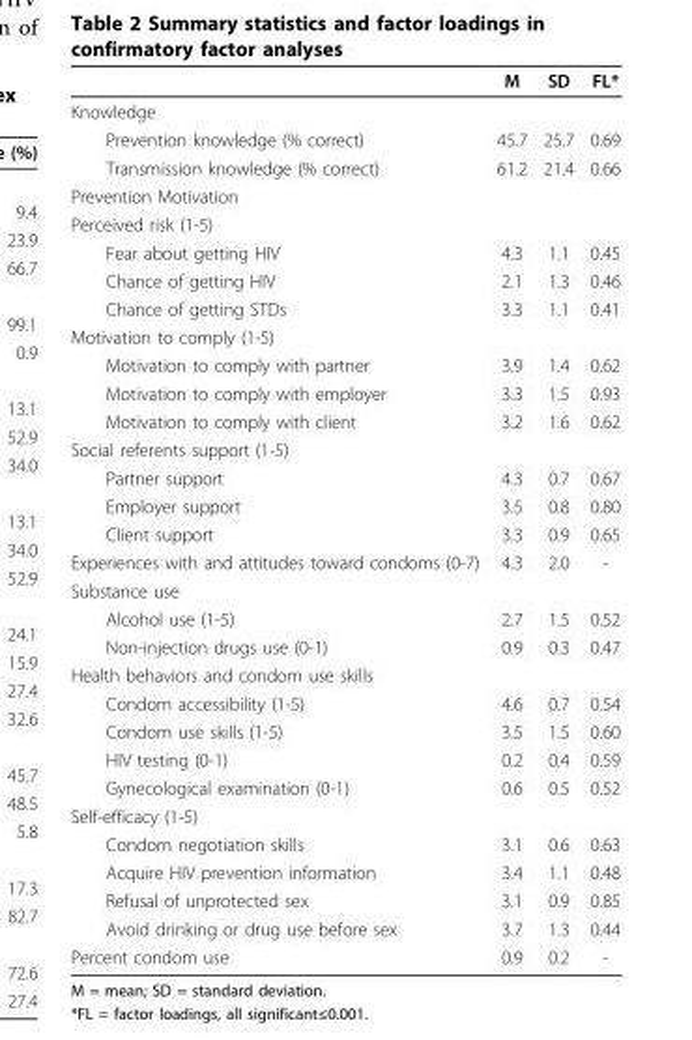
<table><thead><tr><td></td><td>M</td><td>SD</td><td>FL*</td></tr></thead><tbody><tr><td colspan="4">Knowledge</td></tr><tr><td>Prevention knowledge (% correct)</td><td>45.7</td><td>25.7</td><td>0.69</td></tr><tr><td>Transmission knowledge (% correct)</td><td>61.2</td><td>21.4</td><td>0.66</td></tr><tr><td colspan="4">Prevention Motivation</td></tr><tr><td colspan="4">Perceived risk (1-5)</td></tr><tr><td>Fear about getting HIV</td><td>4.3</td><td>1.1</td><td>0.45</td></tr><tr><td>Chance of getting HIV</td><td>2.1</td><td>1.3</td><td>0.46</td></tr><tr><td>Chance of getting STDs</td><td>3.3</td><td>1.1</td><td>0.41</td></tr><tr><td colspan="4">Motivation to comply (1-5)</td></tr><tr><td>Motivation to comply with partner</td><td>3.9</td><td>1.4</td><td>0.62</td></tr><tr><td>Motivation to comply with employer</td><td>3.3</td><td>1.5</td><td>0.93</td></tr><tr><td>Motivation to comply with client</td><td>3.2</td><td>1.6</td><td>0.62</td></tr><tr><td colspan="4">Social referents support (1-5)</td></tr><tr><td>Partner support</td><td>4.3</td><td>0.7</td><td>0.67</td></tr><tr><td>Employer support</td><td>3.5</td><td>0.8</td><td>0.80</td></tr><tr><td>Client support</td><td>3.3</td><td>0.9</td><td>0.65</td></tr><tr><td>Experiences with and attitudes toward condoms (0-7)</td><td>4.3</td><td>2.0</td><td>-</td></tr><tr><td colspan="4">Substance use</td></tr><tr><td>Alcohol use (1-5)</td><td>2.7</td><td>1.5</td><td>0.52</td></tr><tr><td>Non-injection drugs use (0-1)</td><td>0.9</td><td>0.3</td><td>0.47</td></tr><tr><td colspan="4">Health behaviors and condom use skills</td></tr><tr><td>Condom accessibility (1-5)</td><td>4.6</td><td>0.7</td><td>0.54</td></tr><tr><td>Condom use skills (1-5)</td><td>3.5</td><td>1.5</td><td>0.60</td></tr><tr><td>HIV testing (0-1)</td><td>0.2</td><td>0.4</td><td>0.59</td></tr><tr><td>Gynecological examination (0-1)</td><td>0.6</td><td>0.5</td><td>0.52</td></tr><tr><td colspan="4">Self-efficacy (1-5)</td></tr><tr><td>Condom negotiation skills</td><td>3.1</td><td>0.6</td><td>0.63</td></tr><tr><td>Acquire HIV prevention information</td><td>3.4</td><td>1.1</td><td>0.48</td></tr><tr><td>Refusal of unprotected sex</td><td>3.1</td><td>0.9</td><td>0.85</td></tr><tr><td>Avoid drinking or drug use before sex</td><td>3.7</td><td>1.3</td><td>0.44</td></tr><tr><td>Percent condom use</td><td>0.9</td><td>0.2</td><td>-</td></tr></tbody></table>